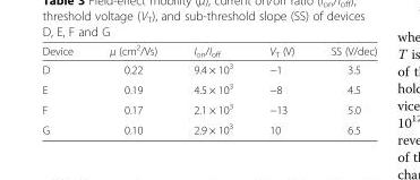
<table><thead><tr><td>Device</td><td>μ (cm<sup>2</sup>/Vs)</td><td>I<sub>on</sub>/I<sub>off</sub></td><td>V<sub>T</sub> (V)</td><td>SS (V/dec)</td></tr></thead><tbody><tr><td>D</td><td>0.22</td><td>9.4 × 10<sup>3</sup></td><td>−1</td><td>3.5</td></tr><tr><td>E</td><td>0.19</td><td>4.5 × 10<sup>3</sup></td><td>−8</td><td>4.5</td></tr><tr><td>F</td><td>0.17</td><td>2.1 × 10<sup>3</sup></td><td>−13</td><td>5.0</td></tr><tr><td>G</td><td>0.10</td><td>2.9 × 10<sup>3</sup></td><td>10</td><td>6.5</td></tr></tbody></table>